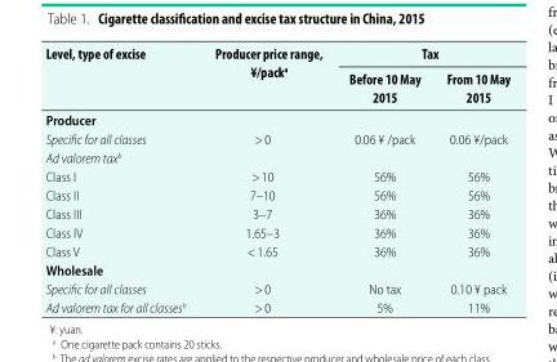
<table><thead><tr><td rowspan="2">Level, type of excise</td><td rowspan="2">Producer price range, ¥/pack<sup>a</sup></td><td colspan="2">Tax</td></tr><tr><td>Before 10 May 2015</td><td>From 10 May 2015</td></tr></thead><tbody><tr><td colspan="4">Producer</td></tr><tr><td>Specific for all classes</td><td>&gt; 0</td><td>0.06 ¥ /pack</td><td>0.06 ¥/pack</td></tr><tr><td colspan="4">Ad valorem tax<sup>b</sup></td></tr><tr><td>Class I</td><td>&gt; 10</td><td>56%</td><td>56%</td></tr><tr><td>Class II</td><td>7–10</td><td>56%</td><td>56%</td></tr><tr><td>Class III</td><td>3–7</td><td>36%</td><td>36%</td></tr><tr><td>Class IV</td><td>1.65–3</td><td>36%</td><td>36%</td></tr><tr><td>Class V</td><td>&lt; 1.65</td><td>36%</td><td>36%</td></tr><tr><td colspan="4">Wholesale</td></tr><tr><td>Specific for all classes</td><td>&gt; 0</td><td>No tax</td><td>0.10 ¥ pack</td></tr><tr><td>Ad valorem tax for all classes<sup>b</sup></td><td>&gt; 0</td><td>5%</td><td>11%</td></tr></tbody></table>